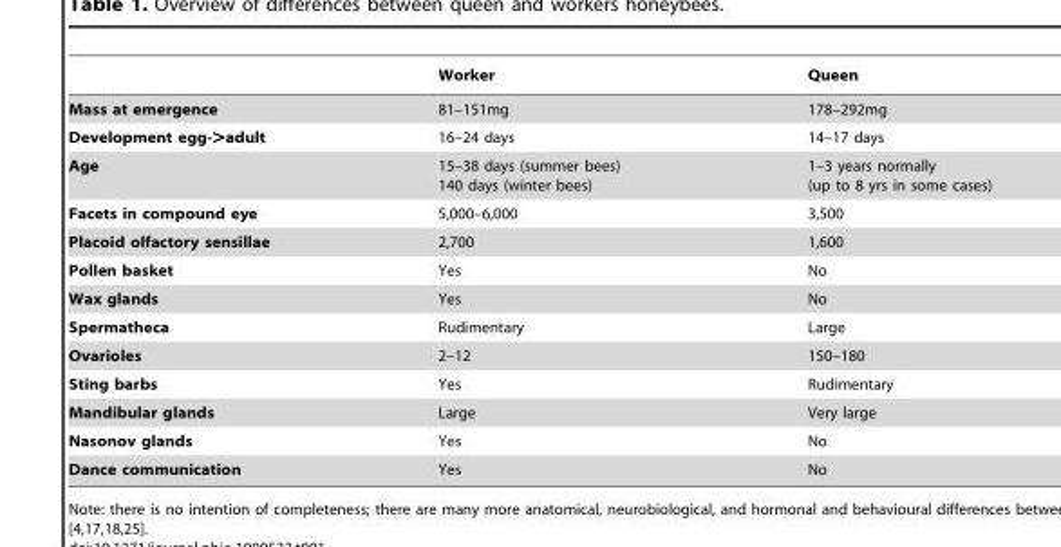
<table><thead><tr><td></td><td>Worker</td><td>Queen</td></tr></thead><tbody><tr><td>Mass at emergence</td><td>81–151mg</td><td>178–292mg</td></tr><tr><td>Development egg-&gt;adult</td><td>16–24 days</td><td>14–17 days</td></tr><tr><td>Age</td><td>15–38 days (summer bees) 140 days (winter bees)</td><td>1–3 years normally (up to 8 yrs in some cases)</td></tr><tr><td>Facets in compound eye</td><td>5,000–6,000</td><td>3,500</td></tr><tr><td>Placoid olfactory sensillae</td><td>2,700</td><td>1,600</td></tr><tr><td>Pollen basket</td><td>Yes</td><td>No</td></tr><tr><td>Wax glands</td><td>Yes</td><td>No</td></tr><tr><td>Spermatheca</td><td>Rudimentary</td><td>Large</td></tr><tr><td>Ovarioles</td><td>2–12</td><td>150–180</td></tr><tr><td>Sting barbs</td><td>Yes</td><td>Rudimentary</td></tr><tr><td>Mandibular glands</td><td>Large</td><td>Very large</td></tr><tr><td>Nasonov glands</td><td>Yes</td><td>No</td></tr><tr><td>Dance communication</td><td>Yes</td><td>No</td></tr></tbody></table>